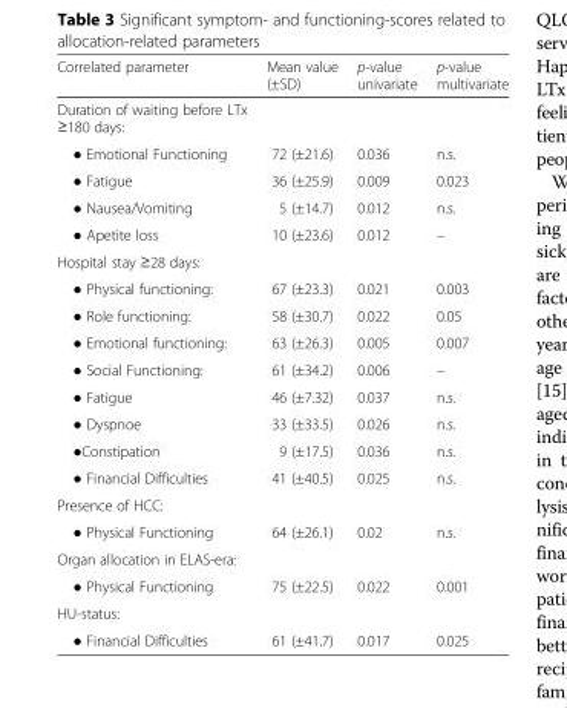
<table><thead><tr><td>Correlated parameter</td><td>Mean value (±SD)</td><td>p-value univariate</td><td>p-value multivariate</td></tr></thead><tbody><tr><td colspan="4">Duration of waiting before LTx ≥180 days:</td></tr><tr><td>● Emotional Functioning</td><td>72 (±21.6)</td><td>0.036</td><td>n.s.</td></tr><tr><td>● Fatigue</td><td>36 (±25.9)</td><td>0.009</td><td>0.023</td></tr><tr><td>● Nausea/Vomiting</td><td>5 (±14.7)</td><td>0.012</td><td>n.s.</td></tr><tr><td>● Apetite loss</td><td>10 (±23.6)</td><td>0.012</td><td>–</td></tr><tr><td colspan="4">Hospital stay ≥28 days:</td></tr><tr><td>● Physical functioning:</td><td>67 (±23.3)</td><td>0.021</td><td>0.003</td></tr><tr><td>● Role functioning:</td><td>58 (±30.7)</td><td>0.022</td><td>0.05</td></tr><tr><td>● Emotional functioning:</td><td>63 (±26.3)</td><td>0.005</td><td>0.007</td></tr><tr><td>● Social Functioning:</td><td>61 (±34.2)</td><td>0.006</td><td>–</td></tr><tr><td>● Fatigue</td><td>46 (±7.32)</td><td>0.037</td><td>n.s.</td></tr><tr><td>● Dyspnoe</td><td>33 (±33.5)</td><td>0.026</td><td>n.s.</td></tr><tr><td>●Constipation</td><td>9 (±17.5)</td><td>0.036</td><td>n.s.</td></tr><tr><td>● Financial Difficulties</td><td>41 (±40.5)</td><td>0.025</td><td>n.s.</td></tr><tr><td colspan="4">Presence of HCC:</td></tr><tr><td>● Physical Functioning</td><td>64 (±26.1)</td><td>0.02</td><td>n.s.</td></tr><tr><td colspan="4">Organ allocation in ELAS-era:</td></tr><tr><td>● Physical Functioning</td><td>75 (±22.5)</td><td>0.022</td><td>0.001</td></tr><tr><td colspan="4">HU-status:</td></tr><tr><td>● Financial Difficulties</td><td>61 (±41.7)</td><td>0.017</td><td>0.025</td></tr></tbody></table>